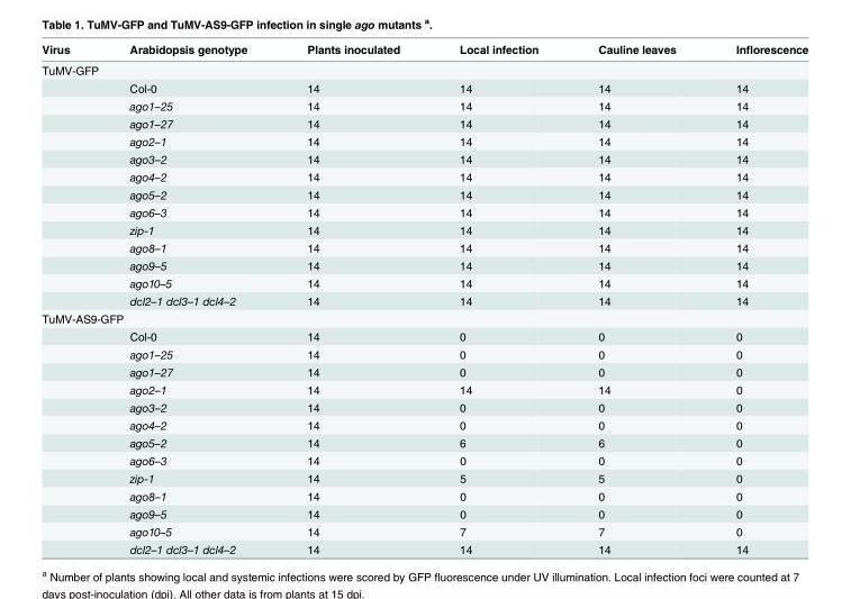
<table><thead><tr><td>Virus</td><td>Arabidopsis genotype</td><td>Plants inoculated</td><td>Local infection</td><td>Cauline leaves</td><td>Inflorescence</td></tr></thead><tbody><tr><td colspan="6">TuMV-GFP</td></tr><tr><td></td><td>Col-0</td><td>14</td><td>14</td><td>14</td><td>14</td></tr><tr><td></td><td>ago1–25</td><td>14</td><td>14</td><td>14</td><td>14</td></tr><tr><td></td><td>ago1–27</td><td>14</td><td>14</td><td>14</td><td>14</td></tr><tr><td></td><td>ago2–1</td><td>14</td><td>14</td><td>14</td><td>14</td></tr><tr><td></td><td>ago3–2</td><td>14</td><td>14</td><td>14</td><td>14</td></tr><tr><td></td><td>ago4–2</td><td>14</td><td>14</td><td>14</td><td>14</td></tr><tr><td></td><td>ago5–2</td><td>14</td><td>14</td><td>14</td><td>14</td></tr><tr><td></td><td>ago6–3</td><td>14</td><td>14</td><td>14</td><td>14</td></tr><tr><td></td><td>zip-1</td><td>14</td><td>14</td><td>14</td><td>14</td></tr><tr><td></td><td>ago8–1</td><td>14</td><td>14</td><td>14</td><td>14</td></tr><tr><td></td><td>ago9–5</td><td>14</td><td>14</td><td>14</td><td>14</td></tr><tr><td></td><td>ago10–5</td><td>14</td><td>14</td><td>14</td><td>14</td></tr><tr><td></td><td>dcl2–1 dcl3–1 dcl4–2</td><td>14</td><td>14</td><td>14</td><td>14</td></tr><tr><td colspan="6">TuMV-AS9-GFP</td></tr><tr><td></td><td>Col-0</td><td>14</td><td>0</td><td>0</td><td>0</td></tr><tr><td></td><td>ago1–25</td><td>14</td><td>0</td><td>0</td><td>0</td></tr><tr><td></td><td>ago1–27</td><td>14</td><td>0</td><td>0</td><td>0</td></tr><tr><td></td><td>ago2–1</td><td>14</td><td>14</td><td>14</td><td>0</td></tr><tr><td></td><td>ago3–2</td><td>14</td><td>0</td><td>0</td><td>0</td></tr><tr><td></td><td>ago4–2</td><td>14</td><td>0</td><td>0</td><td>0</td></tr><tr><td></td><td>ago5–2</td><td>14</td><td>6</td><td>6</td><td>0</td></tr><tr><td></td><td>ago6–3</td><td>14</td><td>0</td><td>0</td><td>0</td></tr><tr><td></td><td>zip-1</td><td>14</td><td>5</td><td>5</td><td>0</td></tr><tr><td></td><td>ago8–1</td><td>14</td><td>0</td><td>0</td><td>0</td></tr><tr><td></td><td>ago9–5</td><td>14</td><td>0</td><td>0</td><td>0</td></tr><tr><td></td><td>ago10–5</td><td>14</td><td>7</td><td>7</td><td>0</td></tr><tr><td></td><td>dcl2–1 dcl3–1 dcl4–2</td><td>14</td><td>14</td><td>14</td><td>14</td></tr></tbody></table>